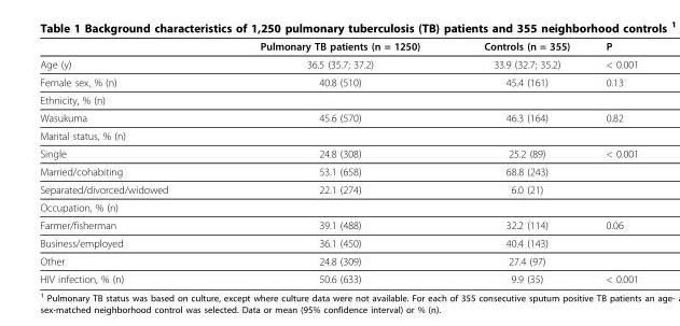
<table><thead><tr><td></td><td>Pulmonary TB patients (n = 1250)</td><td>Controls (n = 355)</td><td>P</td></tr></thead><tbody><tr><td>Age (y)</td><td>36.5 (35.7; 37.2)</td><td>33.9 (32.7; 35.2)</td><td>&lt; 0.001</td></tr><tr><td>Female sex, % (n)</td><td>40.8 (510)</td><td>45.4 (161)</td><td>0.13</td></tr><tr><td colspan="4">Ethnicity, % (n)</td></tr><tr><td>Wasukuma</td><td>45.6 (570)</td><td>46.3 (164)</td><td>0.82</td></tr><tr><td colspan="4">Marital status, % (n)</td></tr><tr><td>Single</td><td>24.8 (308)</td><td>25.2 (89)</td><td>&lt; 0.001</td></tr><tr><td>Married/cohabiting</td><td>53.1 (658)</td><td>68.8 (243)</td><td></td></tr><tr><td>Separated/divorced/widowed</td><td>22.1 (274)</td><td>6.0 (21)</td><td></td></tr><tr><td colspan="4">Occupation, % (n)</td></tr><tr><td>Farmer/fisherman</td><td>39.1 (488)</td><td>32.2 (114)</td><td>0.06</td></tr><tr><td>Business/employed</td><td>36.1 (450)</td><td>40.4 (143)</td><td></td></tr><tr><td>Other</td><td>24.8 (309)</td><td>27.4 (97)</td><td></td></tr><tr><td>HIV infection, % (n)</td><td>50.6 (633)</td><td>9.9 (35)</td><td>&lt; 0.001</td></tr></tbody></table>